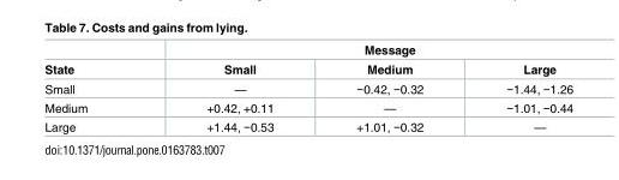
<table><thead><tr><td rowspan="2">State</td><td colspan="3">Message</td></tr><tr><td>Small</td><td>Medium</td><td>Large</td></tr></thead><tbody><tr><td>Small</td><td>—</td><td>−0.42, −0.32</td><td>−1.44, −1.26</td></tr><tr><td>Medium</td><td>+0.42, +0.11</td><td>—</td><td>−1.01, −0.44</td></tr><tr><td>Large</td><td>+1.44, −0.53</td><td>+1.01, −0.32</td><td>—</td></tr></tbody></table>